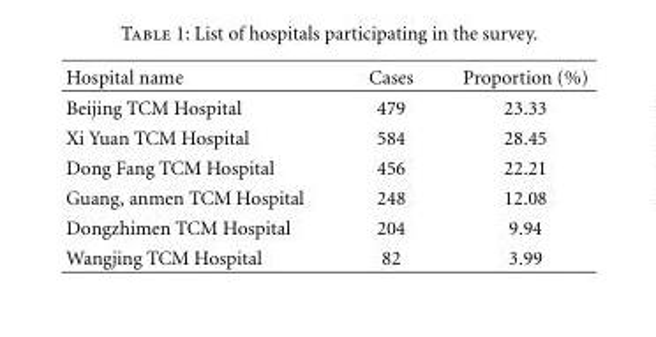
<table><thead><tr><td>Hospital name</td><td>Cases</td><td>Proportion (%)</td></tr></thead><tbody><tr><td>Beijing TCM Hospital</td><td>479</td><td>23.33</td></tr><tr><td>Xi Yuan TCM Hospital</td><td>584</td><td>28.45</td></tr><tr><td>Dong Fang TCM Hospital</td><td>456</td><td>22.21</td></tr><tr><td>Guang, anmen TCM Hospital</td><td>248</td><td>12.08</td></tr><tr><td>Dongzhimen TCM Hospital</td><td>204</td><td>9.94</td></tr><tr><td>Wangjing TCM Hospital</td><td>82</td><td>3.99</td></tr></tbody></table>